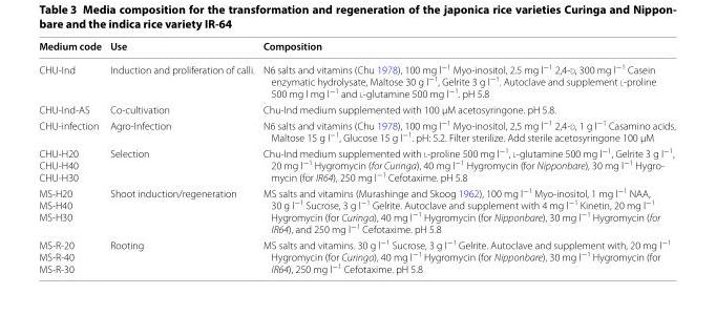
<table><thead><tr><td>Medium code</td><td>Use</td><td>Composition</td></tr></thead><tbody><tr><td>CHU‑Ind</td><td>Induction and proliferation of calli.</td><td>N6 salts and vitamins (Chu 1978), 100 mg l<sup>−1</sup> Myo‑inositol, 2.5 mg l<sup>−1</sup> 2,4‑d, 300 mg l<sup>−1</sup> Casein enzymatic hydrolysate, Maltose 30 g l<sup>−1</sup>, Gelrite 3 g l<sup>−1</sup>. Autoclave and supplement l‑proline 500 mg l mg l<sup>−1</sup> and l‑glutamine 500 mg l<sup>−1</sup>. pH 5.8</td></tr><tr><td>CHU‑Ind‑AS</td><td>Co‑cultivation</td><td>Chu‑Ind medium supplemented with 100 µM acetosyringone. pH 5.8.</td></tr><tr><td>CHU‑infection</td><td>Agro‑Infection</td><td>N6 salts and vitamins (Chu 1978), 100 mg l<sup>−1</sup> Myo‑inositol, 2,5 mg l<sup>−1</sup> 2,4‑d, 1 g l<sup>−1</sup> Casamino acids, Maltose 15 g l<sup>−1</sup>, Glucose 15 g l<sup>−1</sup>. pH: 5.2. Filter sterilize. Add sterile acetosyringone 100 µM</td></tr><tr><td>CHU‑H20 CHU‑H40 CHU‑H30</td><td>Selection</td><td>Chu‑Ind medium supplemented with l‑proline 500 mg l−1, l‑glutamine 500 mg l−1, Gelrite 3 g l−1, 20 mg l−1 Hygromycin (for Curinga), 40 mg l−1 Hygromycin (for Nipponbare), 30 mg l−1 Hygro‑ mycin (for IR64), 250 mg l−1 Cefotaxime. pH 5.8</td></tr><tr><td>MS‑H20 MS‑H40 MS‑H30</td><td>Shoot induction/regeneration</td><td>MS salts and vitamins (Murashinge and Skoog 1962), 100 mg l<sup>−1</sup> Myo‑inositol, 1 mg l<sup>−1</sup> NAA, 30 g l<sup>−1</sup> Sucrose, 3 g l<sup>−1</sup> Gelrite. Autoclave and supplement with 4 mg l<sup>−1</sup> Kinetin, 20 mg l<sup>−1</sup> Hygromycin (for Curinga), 40 mg l<sup>−1</sup> Hygromycin (for Nipponbare), 30 mg l<sup>−1</sup> Hygromycin (for IR64), and 250 mg l<sup>−1</sup> Cefotaxime. pH 5.8</td></tr><tr><td>MS‑R‑20 MS‑R‑40 MS‑R‑30</td><td>Rooting</td><td>MS salts and vitamins. 30 g l<sup>−1</sup> Sucrose, 3 g l<sup>−1</sup> Gelrite. Autoclave and supplement with, 20 mg l<sup>−1</sup> Hygromycin (for Curinga), 40 mg l<sup>−1</sup> Hygromycin (for Nipponbare), 30 mg l<sup>−1</sup> Hygromycin (for IR64), 250 mg l<sup>−1</sup> Cefotaxime. pH 5.8</td></tr></tbody></table>